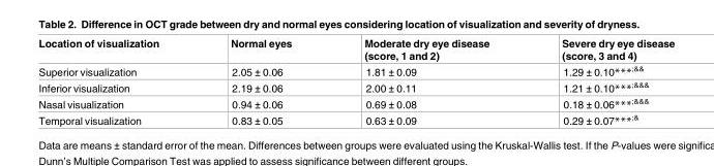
<table><thead><tr><td>Location of visualization</td><td>Normal eyes</td><td>Moderate dry eye disease (score, 1 and 2)</td><td>Severe dry eye disease (score, 3 and 4)</td></tr></thead><tbody><tr><td>Superior visualization</td><td>2.05 ± 0.06</td><td>1.81 ± 0.09</td><td>1.29 ± 0.10***<sup>;&amp;&amp;</sup></td></tr><tr><td>Inferior visualization</td><td>2.19 ± 0.06</td><td>2.00 ± 0.11</td><td>1.21 ± 0.10***<sup>;&amp;&amp;&amp;</sup></td></tr><tr><td>Nasal visualization</td><td>0.94 ± 0.06</td><td>0.69 ± 0.08</td><td>0.18 ± 0.06***<sup>;&amp;&amp;&amp;</sup></td></tr><tr><td>Temporal visualization</td><td>0.83 ± 0.05</td><td>0.63 ± 0.09</td><td>0.29 ± 0.07***<sup>;&amp;</sup></td></tr></tbody></table>